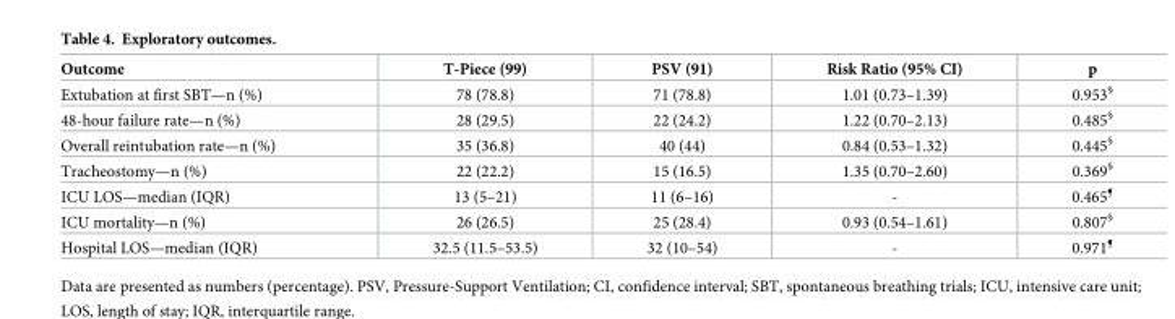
<table><thead><tr><td>Outcome</td><td>T-Piece (99)</td><td>PSV (91)</td><td>Risk Ratio (95% CI)</td><td>p</td></tr></thead><tbody><tr><td>Extubation at first SBT—n (%)</td><td>78 (78.8)</td><td>71 (78.8)</td><td>1.01 (0.73–1.39)</td><td>0.953<sup>§</sup></td></tr><tr><td>48-hour failure rate—n (%)</td><td>28 (29.5)</td><td>22 (24.2)</td><td>1.22 (0.70–2.13)</td><td>0.485<sup>§</sup></td></tr><tr><td>Overall reintubation rate—n (%)</td><td>35 (36.8)</td><td>40 (44)</td><td>0.84 (0.53–1.32)</td><td>0.445<sup>§</sup></td></tr><tr><td>Tracheostomy—n (%)</td><td>22 (22.2)</td><td>15 (16.5)</td><td>1.35 (0.70–2.60)</td><td>0.369<sup>§</sup></td></tr><tr><td>ICU LOS—median (IQR)</td><td>13 (5–21)</td><td>11 (6–16)</td><td>-</td><td>0.465<sup>¶</sup></td></tr><tr><td>ICU mortality—n (%)</td><td>26 (26.5)</td><td>25 (28.4)</td><td>0.93 (0.54–1.61)</td><td>0.807<sup>§</sup></td></tr><tr><td>Hospital LOS—median (IQR)</td><td>32.5 (11.5–53.5)</td><td>32 (10–54)</td><td>-</td><td>0.971<sup>¶</sup></td></tr></tbody></table>